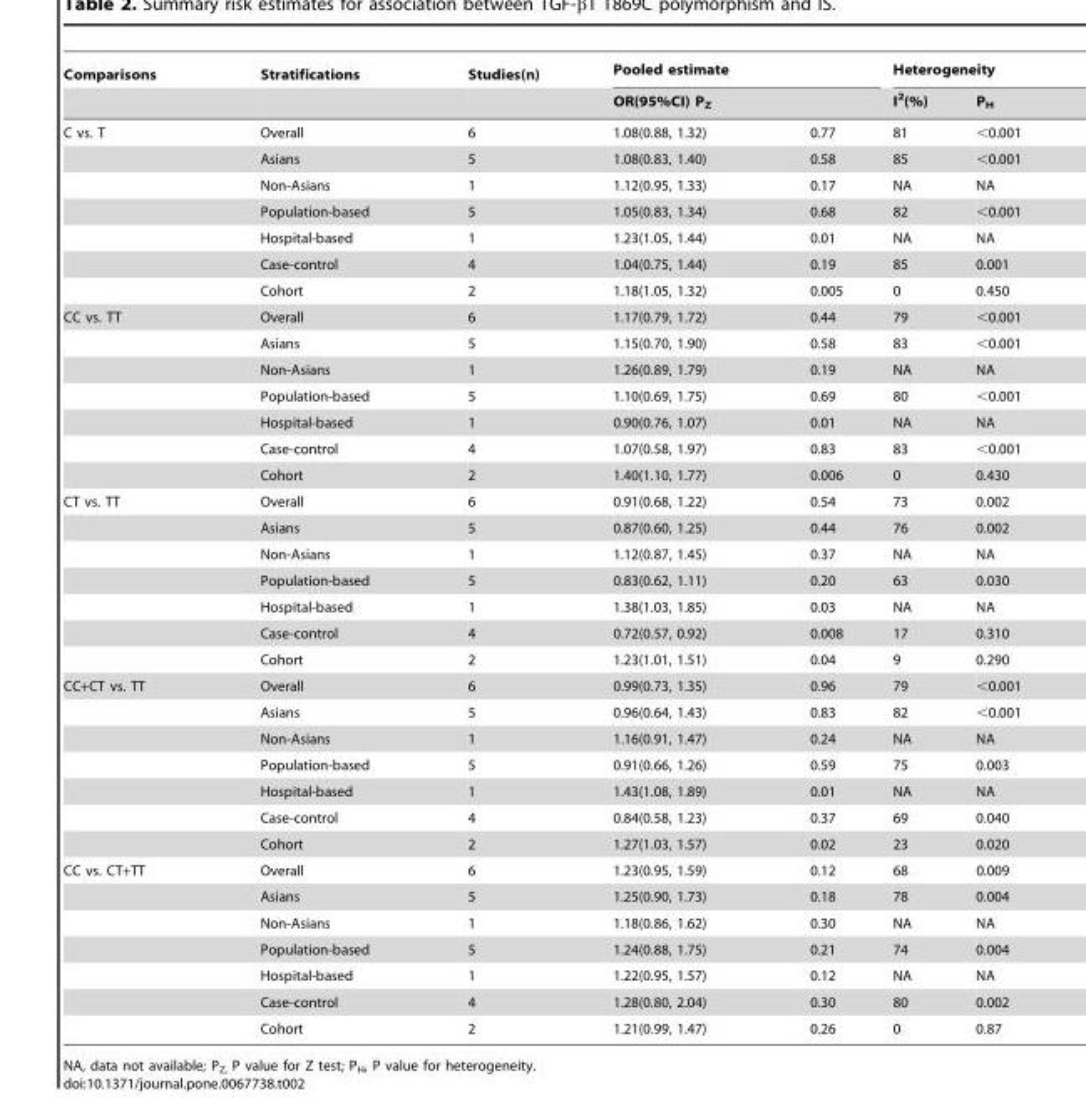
<table><thead><tr><td rowspan="3">Comparisons C vs. T</td><td rowspan="3">Stratifications Overall</td><td rowspan="3">Studies(n) 6</td><td rowspan="2" colspan="2">Pooled estimate OR(95%CI) P<sub>Z</sub></td><td colspan="2">Heterogeneity</td></tr><tr><td rowspan="2">I<sup>2</sup>(%) 81</td><td rowspan="2">P<sub>H</sub> &lt;0.001</td></tr><tr><td>1.08(0.88, 1.32)</td><td>0.77</td></tr></thead><tbody><tr><td></td><td>Asians</td><td>5</td><td>1.08(0.83, 1.40)</td><td>0.58</td><td>85</td><td>&lt;0.001</td></tr><tr><td></td><td>Non-Asians</td><td>1</td><td>1.12(0.95, 1.33)</td><td>0.17</td><td>NA</td><td>NA</td></tr><tr><td></td><td>Population-based</td><td>5</td><td>1.05(0.83, 1.34)</td><td>0.68</td><td>82</td><td>&lt;0.001</td></tr><tr><td></td><td>Hospital-based</td><td>1</td><td>1.23(1.05, 1.44)</td><td>0.01</td><td>NA</td><td>NA</td></tr><tr><td></td><td>Case-control</td><td>4</td><td>1.04(0.75, 1.44)</td><td>0.19</td><td>85</td><td>0.001</td></tr><tr><td></td><td>Cohort</td><td>2</td><td>1.18(1.05, 1.32)</td><td>0.005</td><td>0</td><td>0.450</td></tr><tr><td rowspan="7">CC vs. TT</td><td>Overall</td><td>6</td><td>1.17(0.79, 1.72)</td><td>0.44</td><td>79</td><td>&lt;0.001</td></tr><tr><td>Asians</td><td>5</td><td>1.15(0.70, 1.90)</td><td>0.58</td><td>83</td><td>&lt;0.001</td></tr><tr><td>Non-Asians</td><td>1</td><td>1.26(0.89, 1.79)</td><td>0.19</td><td>NA</td><td>NA</td></tr><tr><td>Population-based</td><td>5</td><td>1.10(0.69, 1.75)</td><td>0.69</td><td>80</td><td>&lt;0.001</td></tr><tr><td>Hospital-based</td><td>1</td><td>0.90(0.76, 1.07)</td><td>0.01</td><td>NA</td><td>NA</td></tr><tr><td>Case-control</td><td>4</td><td>1.07(0.58, 1.97)</td><td>0.83</td><td>83</td><td>&lt;0.001</td></tr><tr><td>Cohort</td><td>2</td><td>1.40(1.10, 1.77)</td><td>0.006</td><td>0</td><td>0.430</td></tr><tr><td rowspan="7">CT vs. TT</td><td>Overall</td><td>6</td><td>0.91(0.68, 1.22)</td><td>0.54</td><td>73</td><td>0.002</td></tr><tr><td>Asians</td><td>5</td><td>0.87(0.60, 1.25)</td><td>0.44</td><td>76</td><td>0.002</td></tr><tr><td>Non-Asians</td><td>1</td><td>1.12(0.87, 1.45)</td><td>0.37</td><td>NA</td><td>NA</td></tr><tr><td>Population-based</td><td>5</td><td>0.83(0.62, 1.11)</td><td>0.20</td><td>63</td><td>0.030</td></tr><tr><td>Hospital-based</td><td>1</td><td>1.38(1.03, 1.85)</td><td>0.03</td><td>NA</td><td>NA</td></tr><tr><td>Case-control</td><td>4</td><td>0.72(0.57, 0.92)</td><td>0.008</td><td>17</td><td>0.310</td></tr><tr><td>Cohort</td><td>2</td><td>1.23(1.01, 1.51)</td><td>0.04</td><td>9</td><td>0.290</td></tr><tr><td rowspan="7">CC+CT vs. TT</td><td>Overall</td><td>6</td><td>0.99(0.73, 1.35)</td><td>0.96</td><td>79</td><td>&lt;0.001</td></tr><tr><td>Asians</td><td>5</td><td>0.96(0.64, 1.43)</td><td>0.83</td><td>82</td><td>&lt;0.001</td></tr><tr><td>Non-Asians</td><td>1</td><td>1.16(0.91, 1.47)</td><td>0.24</td><td>NA</td><td>NA</td></tr><tr><td>Population-based</td><td>5</td><td>0.91(0.66, 1.26)</td><td>0.59</td><td>75</td><td>0.003</td></tr><tr><td>Hospital-based</td><td>1</td><td>1.43(1.08, 1.89)</td><td>0.01</td><td>NA</td><td>NA</td></tr><tr><td>Case-control</td><td>4</td><td>0.84(0.58, 1.23)</td><td>0.37</td><td>69</td><td>0.040</td></tr><tr><td>Cohort</td><td>2</td><td>1.27(1.03, 1.57)</td><td>0.02</td><td>23</td><td>0.020</td></tr><tr><td rowspan="7">CC vs. CT+TT</td><td>Overall</td><td>6</td><td>1.23(0.95, 1.59)</td><td>0.12</td><td>68</td><td>0.009</td></tr><tr><td>Asians</td><td>5</td><td>1.25(0.90, 1.73)</td><td>0.18</td><td>78</td><td>0.004</td></tr><tr><td>Non-Asians</td><td>1</td><td>1.18(0.86, 1.62)</td><td>0.30</td><td>NA</td><td>NA</td></tr><tr><td>Population-based</td><td>5</td><td>1.24(0.88, 1.75)</td><td>0.21</td><td>74</td><td>0.004</td></tr><tr><td>Hospital-based</td><td>1</td><td>1.22(0.95, 1.57)</td><td>0.12</td><td>NA</td><td>NA</td></tr><tr><td>Case-control</td><td>4</td><td>1.28(0.80, 2.04)</td><td>0.30</td><td>80</td><td>0.002</td></tr><tr><td>Cohort</td><td>2</td><td>1.21(0.99, 1.47)</td><td>0.26</td><td>0</td><td>0.87</td></tr></tbody></table>